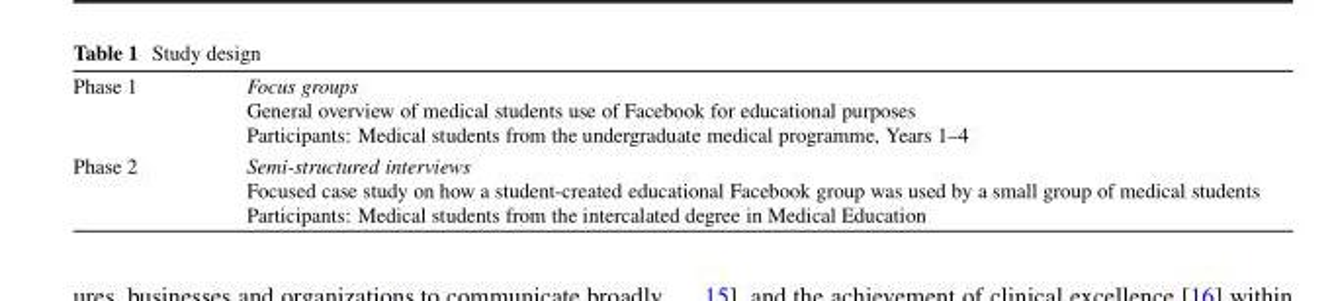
<table><tbody><tr><td>Phase 1</td><td>Focus groups General overview of medical students use of Facebook for educational purposes Participants: Medical students from the undergraduate medical programme, Years 1–4</td></tr><tr><td>Phase 2</td><td>Semi-structured interviews Focused case study on how a student-created educational Facebook group was used by a small group of medical students Participants: Medical students from the intercalated degree in Medical Education</td></tr></tbody></table>